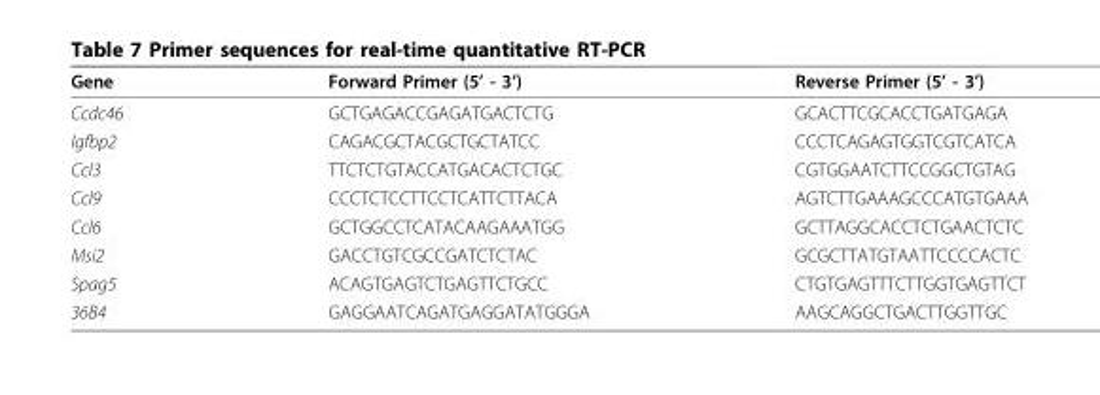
<table><thead><tr><td>Gene</td><td>Forward Primer (5’ - 3’)</td><td>Reverse Primer (5’ - 3’)</td></tr></thead><tbody><tr><td>Ccdc46</td><td>GCTGAGACCGAGATGACTCTG</td><td>GCACTTCGCACCTGATGAGA</td></tr><tr><td>Igfbp2</td><td>CAGACGCTACGCTGCTATCC</td><td>CCCTCAGAGTGGTCGTCATCA</td></tr><tr><td>Ccl3</td><td>TTCTCTGTACCATGACACTCTGC</td><td>CGTGGAATCTTCCGGCTGTAG</td></tr><tr><td>Ccl9</td><td>CCCTCTCCTTCCTCATTCTTACA</td><td>AGTCTTGAAAGCCCATGTGAAA</td></tr><tr><td>Ccl6</td><td>GCTGGCCTCATACAAGAAATGG</td><td>GCTTAGGCACCTCTGAACTCTC</td></tr><tr><td>Msi2</td><td>GACCTGTCGCCGATCTCTAC</td><td>GCGCTTATGTAATTCCCCACTC</td></tr><tr><td>Spag5</td><td>ACAGTGAGTCTGAGTTCTGCC</td><td>CTGTGAGTTTCTTGGTGAGTTCT</td></tr><tr><td>36B4</td><td>GAGGAATCAGATGAGGATATGGGA</td><td>AAGCAGGCTGACTTGGTTGC</td></tr></tbody></table>